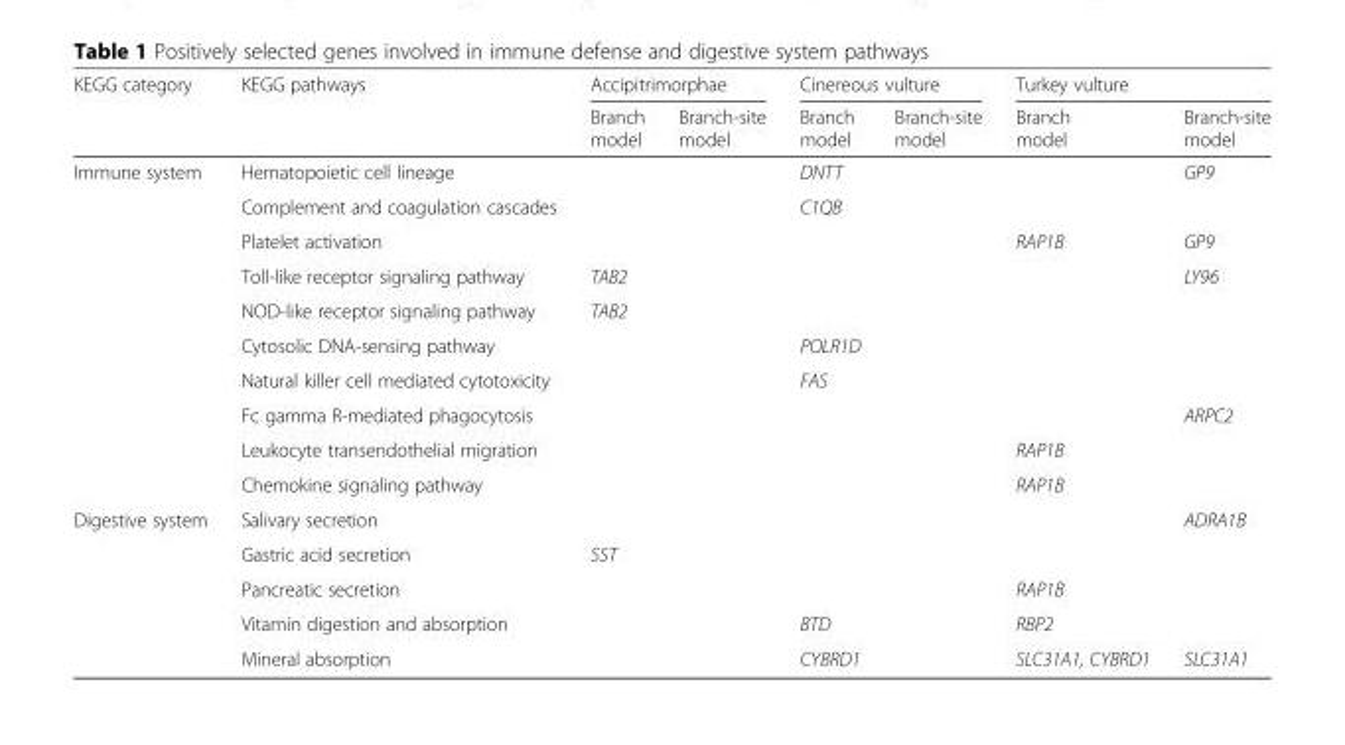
<table><thead><tr><td rowspan="2">KEGG category</td><td rowspan="2">KEGG pathways</td><td colspan="2">Accipitrimorphae</td><td colspan="2">Cinereous vulture</td><td colspan="2">Turkey vulture</td></tr><tr><td>Branch model</td><td>Branch-site model</td><td>Branch model</td><td>Branch-site model</td><td>Branch model</td><td>Branch-site model</td></tr></thead><tbody><tr><td rowspan="10">Immune system</td><td>Hematopoietic cell lineage</td><td></td><td></td><td>DNTT</td><td></td><td></td><td>GP9</td></tr><tr><td>Complement and coagulation cascades</td><td></td><td></td><td>C1QB</td><td></td><td></td><td></td></tr><tr><td>Platelet activation</td><td></td><td></td><td></td><td></td><td>RAP1B</td><td>GP9</td></tr><tr><td>Toll-like receptor signaling pathway</td><td>TAB2</td><td></td><td></td><td></td><td></td><td>LY96</td></tr><tr><td>NOD-like receptor signaling pathway</td><td>TAB2</td><td></td><td></td><td></td><td></td><td></td></tr><tr><td>Cytosolic DNA-sensing pathway</td><td></td><td></td><td>POLR1D</td><td></td><td></td><td></td></tr><tr><td>Natural killer cell mediated cytotoxicity</td><td></td><td></td><td>FAS</td><td></td><td></td><td></td></tr><tr><td>Fc gamma R-mediated phagocytosis</td><td></td><td></td><td></td><td></td><td></td><td>ARPC2</td></tr><tr><td>Leukocyte transendothelial migration</td><td></td><td></td><td></td><td></td><td>RAP1B</td><td></td></tr><tr><td>Chemokine signaling pathway</td><td></td><td></td><td></td><td></td><td>RAP1B</td><td></td></tr><tr><td rowspan="5">Digestive system</td><td>Salivary secretion</td><td></td><td></td><td></td><td></td><td></td><td>ADRA1B</td></tr><tr><td>Gastric acid secretion</td><td>SST</td><td></td><td></td><td></td><td></td><td></td></tr><tr><td>Pancreatic secretion</td><td></td><td></td><td></td><td></td><td>RAP1B</td><td></td></tr><tr><td>Vitamin digestion and absorption</td><td></td><td></td><td>BTD</td><td></td><td>RBP2</td><td></td></tr><tr><td>Mineral absorption</td><td></td><td></td><td>CYBRD1</td><td></td><td>SLC31A1, CYBRD1</td><td>SLC31A1</td></tr></tbody></table>